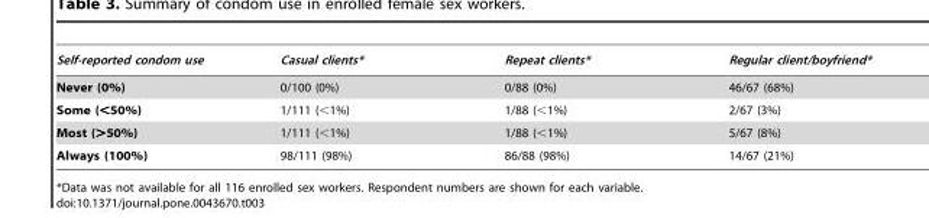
<table><thead><tr><td>Self-reported condom use</td><td>Casual clients*</td><td>Repeat clients*</td><td>Regular client/boyfriend*</td></tr></thead><tbody><tr><td>Never (0%)</td><td>0/100 (0%)</td><td>0/88 (0%)</td><td>46/67 (68%)</td></tr><tr><td>Some (&lt;50%)</td><td>1/111 (&lt;1%)</td><td>1/88 (&lt;1%)</td><td>2/67 (3%)</td></tr><tr><td>Most (&gt;50%)</td><td>1/111 (&lt;1%)</td><td>1/88 (&lt;1%)</td><td>5/67 (8%)</td></tr><tr><td>Always (100%)</td><td>98/111 (98%)</td><td>86/88 (98%)</td><td>14/67 (21%)</td></tr></tbody></table>